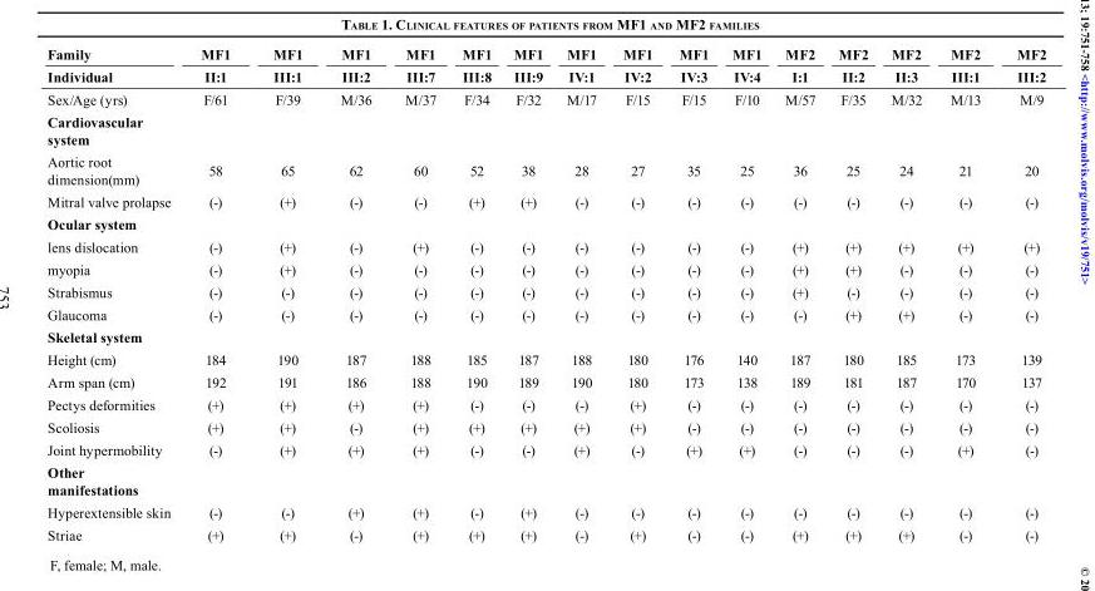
<table><thead><tr><td rowspan="2">Family Individual</td><td rowspan="2">MF1 II:1</td><td rowspan="2">MF1 III:1</td><td rowspan="2">MF1 III:2</td><td rowspan="2">MF1 III:7</td><td rowspan="2">MF1 III:8</td><td rowspan="2">MF1 III:9</td><td rowspan="2">MF1 IV:1</td><td rowspan="2">MF1 IV:2</td><td rowspan="2">MF1 IV:3</td><td rowspan="2">MF1 IV:4</td><td rowspan="2">MF2 I:1</td><td rowspan="2">MF2 II:2</td><td rowspan="2">MF2 II:3</td><td rowspan="2">MF2 III:1</td><td rowspan="2">MF2 III:2</td></tr><tr></tr></thead><tbody><tr><td>Sex/Age (yrs)</td><td>F/61</td><td>F/39</td><td>M/36</td><td>M/37</td><td>F/34</td><td>F/32</td><td>M/17</td><td>F/15</td><td>F/15</td><td>F/10</td><td>M/57</td><td>F/35</td><td>M/32</td><td>M/13</td><td>M/9</td></tr><tr><td colspan="16">Cardiovascular system</td></tr><tr><td>Aortic root dimension(mm)</td><td>58</td><td>65</td><td>62</td><td>60</td><td>52</td><td>38</td><td>28</td><td>27</td><td>35</td><td>25</td><td>36</td><td>25</td><td>24</td><td>21</td><td>20</td></tr><tr><td>Mitral valve prolapse</td><td>(-)</td><td>(+)</td><td>(-)</td><td>(-)</td><td>(+)</td><td>(+)</td><td>(-)</td><td>(-)</td><td>(-)</td><td>(-)</td><td>(-)</td><td>(-)</td><td>(-)</td><td>(-)</td><td>(-)</td></tr><tr><td colspan="16">Ocular system</td></tr><tr><td>lens dislocation</td><td>(-)</td><td>(+)</td><td>(-)</td><td>(+)</td><td>(-)</td><td>(-)</td><td>(-)</td><td>(-)</td><td>(-)</td><td>(-)</td><td>(+)</td><td>(+)</td><td>(+)</td><td>(+)</td><td>(+)</td></tr><tr><td>myopia</td><td>(-)</td><td>(+)</td><td>(-)</td><td>(-)</td><td>(-)</td><td>(-)</td><td>(-)</td><td>(-)</td><td>(-)</td><td>(-)</td><td>(+)</td><td>(+)</td><td>(-)</td><td>(-)</td><td>(-)</td></tr><tr><td>Strabismus</td><td>(-)</td><td>(-)</td><td>(-)</td><td>(-)</td><td>(-)</td><td>(-)</td><td>(-)</td><td>(-)</td><td>(-)</td><td>(-)</td><td>(+)</td><td>(-)</td><td>(-)</td><td>(-)</td><td>(-)</td></tr><tr><td>Glaucoma</td><td>(-)</td><td>(-)</td><td>(-)</td><td>(-)</td><td>(-)</td><td>(-)</td><td>(-)</td><td>(-)</td><td>(-)</td><td>(-)</td><td>(-)</td><td>(+)</td><td>(+)</td><td>(-)</td><td>(-)</td></tr><tr><td colspan="16">Skeletal system</td></tr><tr><td>Height (cm)</td><td>184</td><td>190</td><td>187</td><td>188</td><td>185</td><td>187</td><td>188</td><td>180</td><td>176</td><td>140</td><td>187</td><td>180</td><td>185</td><td>173</td><td>139</td></tr><tr><td>Arm span (cm)</td><td>192</td><td>191</td><td>186</td><td>188</td><td>190</td><td>189</td><td>190</td><td>180</td><td>173</td><td>138</td><td>189</td><td>181</td><td>187</td><td>170</td><td>137</td></tr><tr><td>Pectys deformities</td><td>(+)</td><td>(+)</td><td>(+)</td><td>(+)</td><td>(-)</td><td>(-)</td><td>(-)</td><td>(+)</td><td>(-)</td><td>(-)</td><td>(-)</td><td>(-)</td><td>(-)</td><td>(-)</td><td>(-)</td></tr><tr><td>Scoliosis</td><td>(+)</td><td>(+)</td><td>(-)</td><td>(+)</td><td>(+)</td><td>(+)</td><td>(+)</td><td>(+)</td><td>(-)</td><td>(-)</td><td>(-)</td><td>(-)</td><td>(-)</td><td>(-)</td><td>(-)</td></tr><tr><td>Joint hypermobility</td><td>(-)</td><td>(+)</td><td>(+)</td><td>(+)</td><td>(-)</td><td>(-)</td><td>(+)</td><td>(-)</td><td>(+)</td><td>(+)</td><td>(-)</td><td>(-)</td><td>(-)</td><td>(+)</td><td>(-)</td></tr><tr><td colspan="16">Other manifestations</td></tr><tr><td>Hyperextensible skin</td><td>(-)</td><td>(-)</td><td>(+)</td><td>(+)</td><td>(-)</td><td>(+)</td><td>(-)</td><td>(-)</td><td>(-)</td><td>(-)</td><td>(-)</td><td>(-)</td><td>(-)</td><td>(-)</td><td>(-)</td></tr><tr><td>Striae</td><td>(+)</td><td>(+)</td><td>(-)</td><td>(+)</td><td>(+)</td><td>(+)</td><td>(-)</td><td>(+)</td><td>(-)</td><td>(-)</td><td>(+)</td><td>(+)</td><td>(+)</td><td>(-)</td><td>(-)</td></tr></tbody></table>